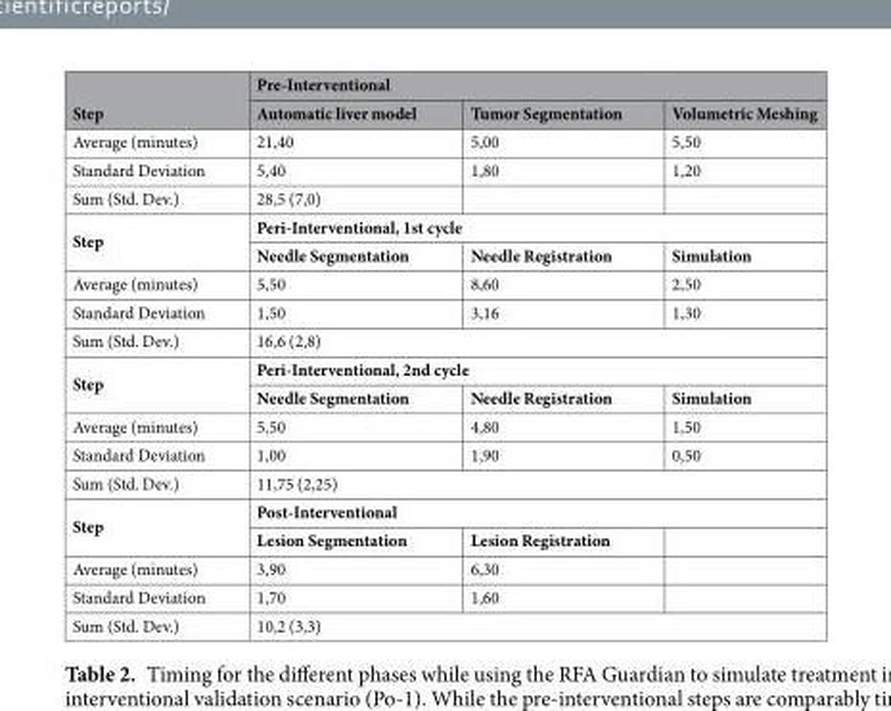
<table><thead><tr><td rowspan="2">Step</td><td colspan="3">Pre-Interventional</td></tr><tr><td>Automatic liver model</td><td>Tumor Segmentation</td><td>Volumetric Meshing</td></tr></thead><tbody><tr><td>Average (minutes)</td><td>21,40</td><td>5,00</td><td>5,50</td></tr><tr><td>Standard Deviation</td><td>5,40</td><td>1,80</td><td>1,20</td></tr><tr><td>Sum (Std. Dev.)</td><td>28,5 (7,0)</td><td></td><td></td></tr><tr><td rowspan="2">Step</td><td colspan="3">Peri-Interventional, 1st cycle</td></tr><tr><td>Needle Segmentation</td><td>Needle Registration</td><td>Simulation</td></tr><tr><td>Average (minutes)</td><td>5,50</td><td>8,60</td><td>2,50</td></tr><tr><td>Standard Deviation</td><td>1,50</td><td>3,16</td><td>1,30</td></tr><tr><td>Sum (Std. Dev.)</td><td colspan="3">16,6 (2,8)</td></tr><tr><td rowspan="2">Step</td><td colspan="3">Peri-Interventional, 2nd cycle</td></tr><tr><td>Needle Segmentation</td><td>Needle Registration</td><td>Simulation</td></tr><tr><td>Average (minutes)</td><td>5,50</td><td>4,80</td><td>1,50</td></tr><tr><td>Standard Deviation</td><td>1,00</td><td>1,90</td><td>0,50</td></tr><tr><td>Sum (Std. Dev.)</td><td colspan="3">11,75 (2,25)</td></tr><tr><td rowspan="2">Step</td><td colspan="3">Post-Interventional</td></tr><tr><td>Lesion Segmentation</td><td>Lesion Registration</td><td></td></tr><tr><td>Average (minutes)</td><td>3,90</td><td>6,30</td><td></td></tr><tr><td>Standard Deviation</td><td>1,70</td><td>1,60</td><td></td></tr><tr><td>Sum (Std. Dev.)</td><td colspan="3">10,2 (3,3)</td></tr></tbody></table>